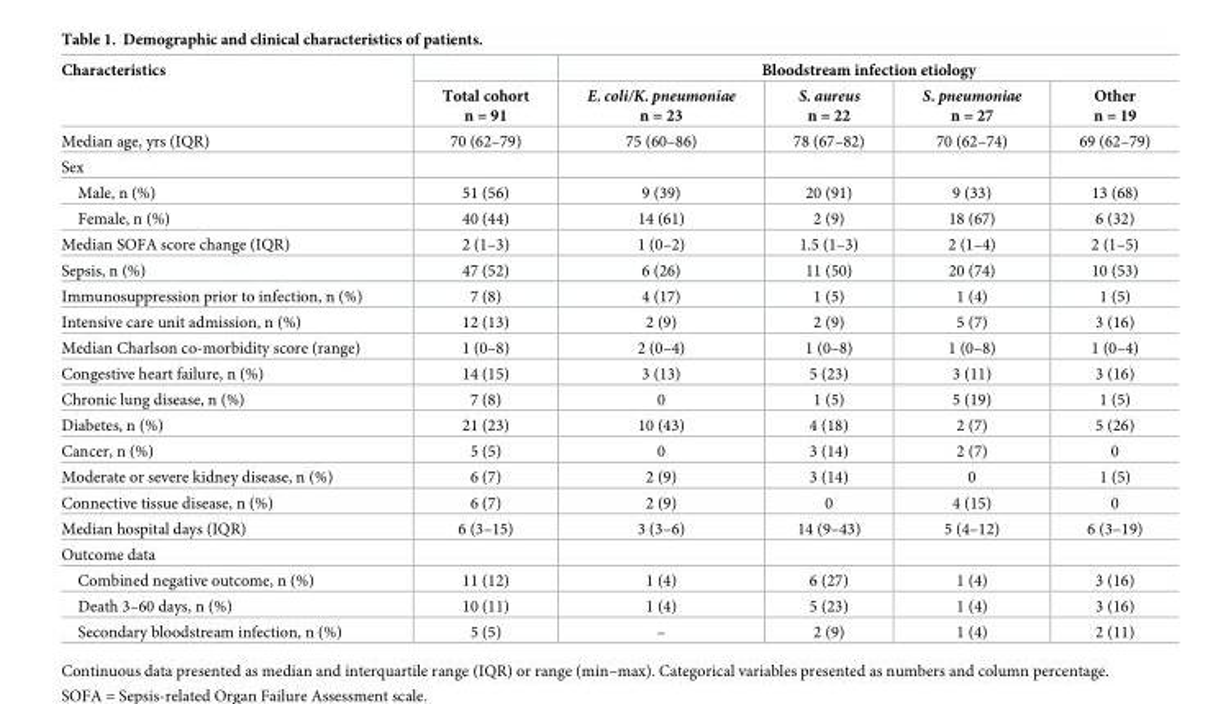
<table><thead><tr><td rowspan="2">Characteristics</td><td rowspan="2">Total cohort n = 91</td><td colspan="4">Bloodstream infection etiology</td></tr><tr><td>E. coli/K. pneumoniae n = 23</td><td>S. aureus n = 22</td><td>S. pneumoniae n = 27</td><td>Other n = 19</td></tr></thead><tbody><tr><td>Median age, yrs (IQR)</td><td>70 (62–79)</td><td>75 (60–86)</td><td>78 (67–82)</td><td>70 (62–74)</td><td>69 (62–79)</td></tr><tr><td colspan="6">Sex</td></tr><tr><td>Male, n (%)</td><td>51 (56)</td><td>9 (39)</td><td>20 (91)</td><td>9 (33)</td><td>13 (68)</td></tr><tr><td>Female, n (%)</td><td>40 (44)</td><td>14 (61)</td><td>2 (9)</td><td>18 (67)</td><td>6 (32)</td></tr><tr><td>Median SOFA score change (IQR)</td><td>2 (1–3)</td><td>1 (0–2)</td><td>1.5 (1–3)</td><td>2 (1–4)</td><td>2 (1–5)</td></tr><tr><td>Sepsis, n (%)</td><td>47 (52)</td><td>6 (26)</td><td>11 (50)</td><td>20 (74)</td><td>10 (53)</td></tr><tr><td>Immunosuppression prior to infection, n (%)</td><td>7 (8)</td><td>4 (17)</td><td>1 (5)</td><td>1 (4)</td><td>1 (5)</td></tr><tr><td>Intensive care unit admission, n (%)</td><td>12 (13)</td><td>2 (9)</td><td>2 (9)</td><td>5 (7)</td><td>3 (16)</td></tr><tr><td>Median Charlson co-morbidity score (range)</td><td>1 (0–8)</td><td>2 (0–4)</td><td>1 (0–8)</td><td>1 (0–8)</td><td>1 (0–4)</td></tr><tr><td>Congestive heart failure, n (%)</td><td>14 (15)</td><td>3 (13)</td><td>5 (23)</td><td>3 (11)</td><td>3 (16)</td></tr><tr><td>Chronic lung disease, n (%)</td><td>7 (8)</td><td>0</td><td>1 (5)</td><td>5 (19)</td><td>1 (5)</td></tr><tr><td>Diabetes, n (%)</td><td>21 (23)</td><td>10 (43)</td><td>4 (18)</td><td>2 (7)</td><td>5 (26)</td></tr><tr><td>Cancer, n (%)</td><td>5 (5)</td><td>0</td><td>3 (14)</td><td>2 (7)</td><td>0</td></tr><tr><td>Moderate or severe kidney disease, n (%)</td><td>6 (7)</td><td>2 (9)</td><td>3 (14)</td><td>0</td><td>1 (5)</td></tr><tr><td>Connective tissue disease, n (%)</td><td>6 (7)</td><td>2 (9)</td><td>0</td><td>4 (15)</td><td>0</td></tr><tr><td>Median hospital days (IQR)</td><td>6 (3–15)</td><td>3 (3–6)</td><td>14 (9–43)</td><td>5 (4–12)</td><td>6 (3–19)</td></tr><tr><td colspan="6">Outcome data</td></tr><tr><td>Combined negative outcome, n (%)</td><td>11 (12)</td><td>1 (4)</td><td>6 (27)</td><td>1 (4)</td><td>3 (16)</td></tr><tr><td>Death 3–60 days, n (%)</td><td>10 (11)</td><td>1 (4)</td><td>5 (23)</td><td>1 (4)</td><td>3 (16)</td></tr><tr><td>Secondary bloodstream infection, n (%)</td><td>5 (5)</td><td>–</td><td>2 (9)</td><td>1 (4)</td><td>2 (11)</td></tr></tbody></table>